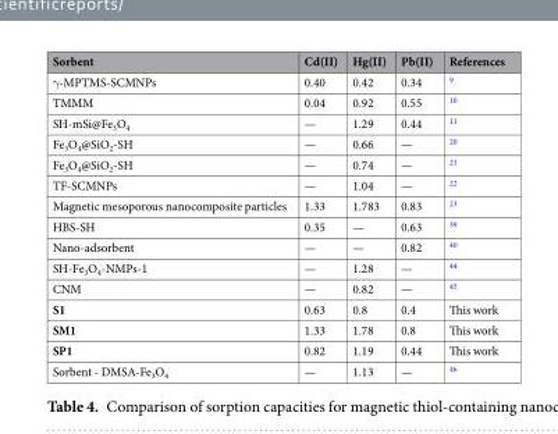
<table><thead><tr><td>Sorbent</td><td>Cd(II)</td><td>Hg(II)</td><td>Pb(II)</td><td>References</td></tr></thead><tbody><tr><td>γ-MPTMS-SCMNPs</td><td>0.40</td><td>0.42</td><td>0.34</td><td><sup>9</sup></td></tr><tr><td>TMMM</td><td>0.04</td><td>0.92</td><td>0.55</td><td><sup>10</sup></td></tr><tr><td>SH-mSi@Fe<sub>3</sub>O<sub>4</sub></td><td>—</td><td>1.29</td><td>0.44</td><td><sup>11</sup></td></tr><tr><td>Fe<sub>3</sub>O<sub>4</sub>@SiO<sub>2</sub>-SH</td><td>—</td><td>0.66</td><td>—</td><td><sup>20</sup></td></tr><tr><td>Fe<sub>3</sub>O<sub>4</sub>@SiO<sub>2</sub>-SH</td><td>—</td><td>0.74</td><td>—</td><td><sup>21</sup></td></tr><tr><td>TF-SCMNPs</td><td>—</td><td>1.04</td><td>—</td><td><sup>22</sup></td></tr><tr><td>Magnetic mesoporous nanocomposite particles</td><td>1.33</td><td>1.783</td><td>0.83</td><td><sup>23</sup></td></tr><tr><td>HBS-SH</td><td>0.35</td><td>—</td><td>0.63</td><td><sup>39</sup></td></tr><tr><td>Nano-adsorbent</td><td>—</td><td>—</td><td>0.82</td><td><sup>40</sup></td></tr><tr><td>SH-Fe<sub>3</sub>O<sub>4</sub>-NMPs-1</td><td>—</td><td>1.28</td><td>—</td><td><sup>44</sup></td></tr><tr><td>CNM</td><td>—</td><td>0.82</td><td>—</td><td><sup>45</sup></td></tr><tr><td>S1</td><td>0.63</td><td>0.8</td><td>0.4</td><td>This work</td></tr><tr><td>SM1</td><td>1.33</td><td>1.78</td><td>0.8</td><td>This work</td></tr><tr><td>SP1</td><td>0.82</td><td>1.19</td><td>0.44</td><td>This work</td></tr><tr><td>Sorbent - DMSA-Fe<sub>3</sub>O<sub>4</sub></td><td>—</td><td>1.13</td><td>—</td><td><sup>46</sup></td></tr></tbody></table>